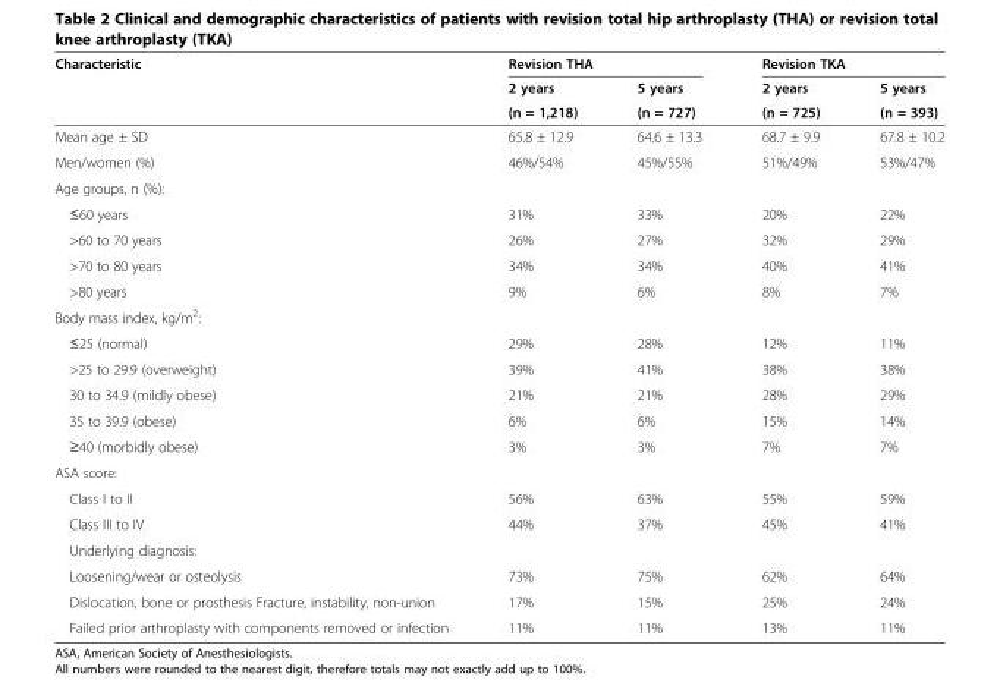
<table><thead><tr><td rowspan="3">Characteristic</td><td colspan="2">Revision THA</td><td colspan="2">Revision TKA</td></tr><tr><td rowspan="2">2 years (n = 1,218)</td><td rowspan="2">5 years (n = 727)</td><td rowspan="2">2 years (n = 725)</td><td rowspan="2">5 years (n = 393)</td></tr><tr></tr></thead><tbody><tr><td>Mean age ± SD</td><td>65.8 ± 12.9</td><td>64.6 ± 13.3</td><td>68.7 ± 9.9</td><td>67.8 ± 10.2</td></tr><tr><td>Men/women (%)</td><td>46%/54%</td><td>45%/55%</td><td>51%/49%</td><td>53%/47%</td></tr><tr><td colspan="5">Age groups, n (%):</td></tr><tr><td>≤60 years</td><td>31%</td><td>33%</td><td>20%</td><td>22%</td></tr><tr><td>&gt;60 to 70 years</td><td>26%</td><td>27%</td><td>32%</td><td>29%</td></tr><tr><td>&gt;70 to 80 years</td><td>34%</td><td>34%</td><td>40%</td><td>41%</td></tr><tr><td>&gt;80 years</td><td>9%</td><td>6%</td><td>8%</td><td>7%</td></tr><tr><td colspan="5">Body mass index, kg/m<sup>2</sup>:</td></tr><tr><td>≤25 (normal)</td><td>29%</td><td>28%</td><td>12%</td><td>11%</td></tr><tr><td>&gt;25 to 29.9 (overweight)</td><td>39%</td><td>41%</td><td>38%</td><td>38%</td></tr><tr><td>30 to 34.9 (mildly obese)</td><td>21%</td><td>21%</td><td>28%</td><td>29%</td></tr><tr><td>35 to 39.9 (obese)</td><td>6%</td><td>6%</td><td>15%</td><td>14%</td></tr><tr><td>≥40 (morbidly obese)</td><td>3%</td><td>3%</td><td>7%</td><td>7%</td></tr><tr><td colspan="5">ASA score:</td></tr><tr><td>Class I to II</td><td>56%</td><td>63%</td><td>55%</td><td>59%</td></tr><tr><td>Class III to IV</td><td>44%</td><td>37%</td><td>45%</td><td>41%</td></tr><tr><td colspan="5">Underlying diagnosis:</td></tr><tr><td>Loosening/wear or osteolysis</td><td>73%</td><td>75%</td><td>62%</td><td>64%</td></tr><tr><td>Dislocation, bone or prosthesis Fracture, instability, non-union</td><td>17%</td><td>15%</td><td>25%</td><td>24%</td></tr><tr><td>Failed prior arthroplasty with components removed or infection</td><td>11%</td><td>11%</td><td>13%</td><td>11%</td></tr></tbody></table>